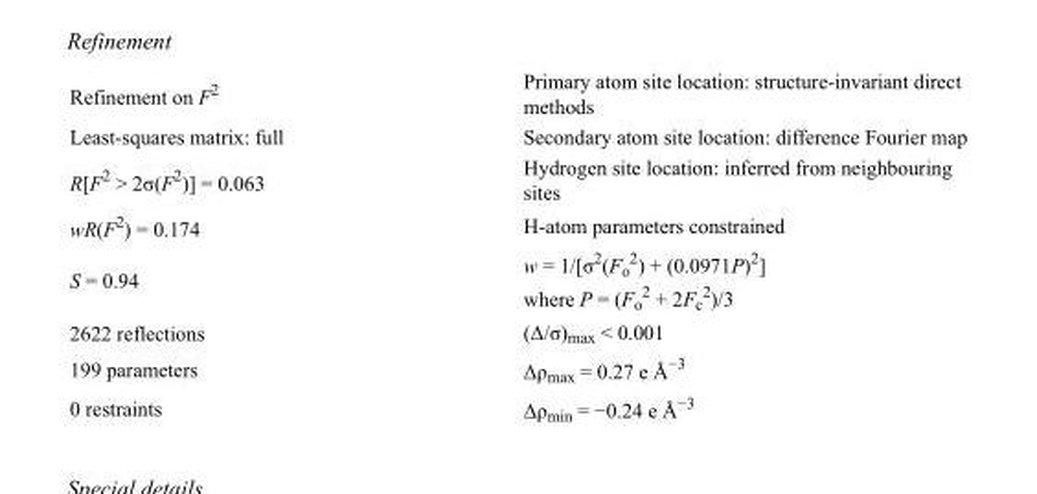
<table><tbody><tr><td>Refinement on F<sup>2</sup></td><td>Primary atom site location: structure-invariant direct methods</td></tr><tr><td>Least-squares matrix: full</td><td>Secondary atom site location: difference Fourier map</td></tr><tr><td>R[F<sup>2</sup> &gt; 2σ(F<sup>2</sup>)] = 0.063</td><td>Hydrogen site location: inferred from neighbouring sites</td></tr><tr><td>wR(F<sup>2</sup>) = 0.174</td><td>H-atom parameters constrained</td></tr><tr><td>S = 0.94</td><td>w = 1/[σ<sup>2</sup>(F<sub>o</sub> <sup>2</sup>) + (0.0971P)<sup>2</sup>] where P = (F<sub>o</sub> <sup>2</sup> + 2F<sub>c</sub> <sup>2</sup>)/3</td></tr><tr><td>2622 reflections</td><td>(Δ/σ)<sub>max</sub> &lt; 0.001</td></tr><tr><td>199 parameters</td><td>Δρ<sub>max</sub> = 0.27 e Å<sup>−3</sup></td></tr><tr><td>0 restraints</td><td>Δρ<sub>min</sub> = −0.24 e Å<sup>−3</sup></td></tr></tbody></table>